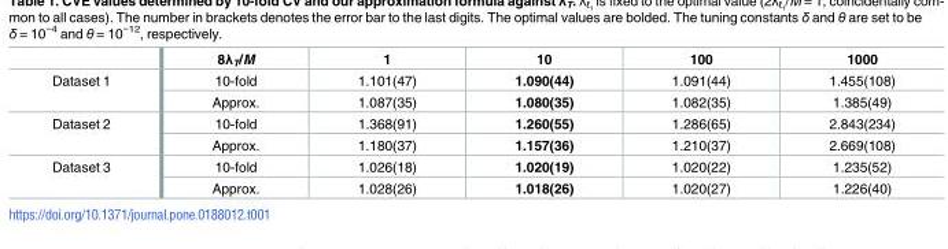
<table><thead><tr><td></td><td>8λ<sub>T</sub>/M</td><td>1</td><td>10</td><td>100</td><td>1000</td></tr></thead><tbody><tr><td rowspan="2">Dataset 1</td><td>10-fold</td><td>1.101(47)</td><td>1.090(44)</td><td>1.091(44)</td><td>1.455(108)</td></tr><tr><td>Approx.</td><td>1.087(35)</td><td>1.080(35)</td><td>1.082(35)</td><td>1.385(49)</td></tr><tr><td rowspan="2">Dataset 2</td><td>10-fold</td><td>1.368(91)</td><td>1.260(55)</td><td>1.286(65)</td><td>2.843(234)</td></tr><tr><td>Approx.</td><td>1.180(37)</td><td>1.157(36)</td><td>1.210(37)</td><td>2.669(108)</td></tr><tr><td rowspan="2">Dataset 3</td><td>10-fold</td><td>1.026(18)</td><td>1.020(19)</td><td>1.020(22)</td><td>1.235(52)</td></tr><tr><td>Approx.</td><td>1.028(26)</td><td>1.018(26)</td><td>1.020(27)</td><td>1.226(40)</td></tr></tbody></table>